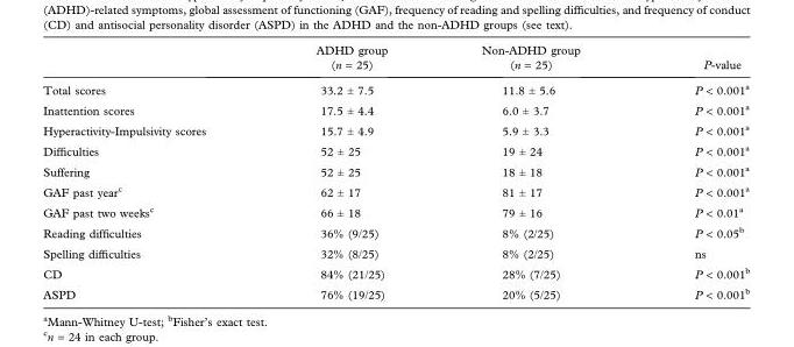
<table><thead><tr><td></td><td>ADHD group (n = 25)</td><td>Non-ADHD group (n = 25)</td><td>P-value</td></tr></thead><tbody><tr><td>Total scores</td><td>33.2 ± 7.5</td><td>11.8 ± 5.6</td><td>P &lt; 0.001<sup>a</sup></td></tr><tr><td>Inattention scores</td><td>17.5 ± 4.4</td><td>6.0 ± 3.7</td><td>P &lt; 0.001<sup>a</sup></td></tr><tr><td>Hyperactivity-Impulsivity scores</td><td>15.7 ± 4.9</td><td>5.9 ± 3.3</td><td>P &lt; 0.001<sup>a</sup></td></tr><tr><td>Difficulties</td><td>52 ± 25</td><td>19 ± 24</td><td>P &lt; 0.001<sup>a</sup></td></tr><tr><td>Suffering</td><td>52 ± 25</td><td>18 ± 18</td><td>P &lt; 0.001<sup>a</sup></td></tr><tr><td>GAF past year<sup>c</sup></td><td>62 ± 17</td><td>81 ± 17</td><td>P &lt; 0.001<sup>a</sup></td></tr><tr><td>GAF past two weeks<sup>c</sup></td><td>66 ± 18</td><td>79 ± 16</td><td>P &lt; 0.01<sup>a</sup></td></tr><tr><td>Reading difficulties</td><td>36% (9/25)</td><td>8% (2/25)</td><td>P &lt; 0.05<sup>b</sup></td></tr><tr><td>Spelling difficulties</td><td>32% (8/25)</td><td>8% (2/25)</td><td>ns</td></tr><tr><td>CD</td><td>84% (21/25)</td><td>28% (7/25)</td><td>P &lt; 0.001<sup>b</sup></td></tr><tr><td>ASPD</td><td>76% (19/25)</td><td>20% (5/25)</td><td>P &lt; 0.001<sup>b</sup></td></tr></tbody></table>